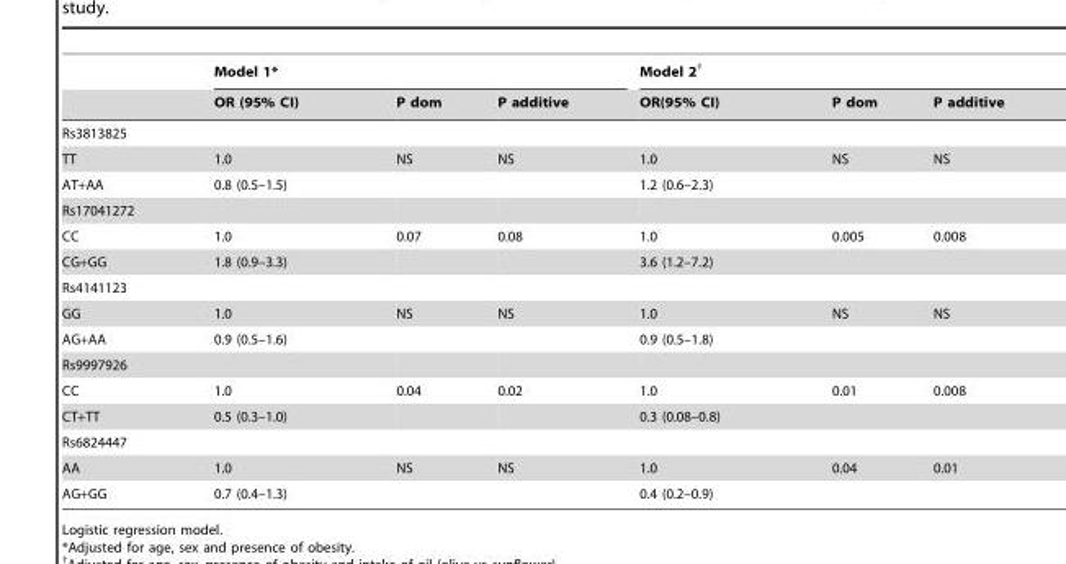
<table><thead><tr><td rowspan="2"></td><td colspan="3">Model 1*</td><td colspan="3">Model 2†</td></tr><tr><td>OR (95% CI)</td><td>P dom</td><td>P additive</td><td>OR(95% CI)</td><td>P dom</td><td>P additive</td></tr></thead><tbody><tr><td colspan="7">Rs3813825</td></tr><tr><td>TT</td><td>1.0</td><td>NS</td><td>NS</td><td>1.0</td><td>NS</td><td>NS</td></tr><tr><td>AT+AA</td><td>0.8 (0.5–1.5)</td><td></td><td></td><td>1.2 (0.6–2.3)</td><td></td><td></td></tr><tr><td colspan="7">Rs17041272</td></tr><tr><td>CC</td><td>1.0</td><td>0.07</td><td>0.08</td><td>1.0</td><td>0.005</td><td>0.008</td></tr><tr><td>CG+GG</td><td>1.8 (0.9–3.3)</td><td></td><td></td><td>3.6 (1.2–7.2)</td><td></td><td></td></tr><tr><td colspan="7">Rs4141123</td></tr><tr><td>GG</td><td>1.0</td><td>NS</td><td>NS</td><td>1.0</td><td>NS</td><td>NS</td></tr><tr><td>AG+AA</td><td>0.9 (0.5–1.6)</td><td></td><td></td><td>0.9 (0.5–1.8)</td><td></td><td></td></tr><tr><td colspan="7">Rs9997926</td></tr><tr><td>CC</td><td>1.0</td><td>0.04</td><td>0.02</td><td>1.0</td><td>0.01</td><td>0.008</td></tr><tr><td>CT+TT</td><td>0.5 (0.3–1.0)</td><td></td><td></td><td>0.3 (0.08–0.8)</td><td></td><td></td></tr><tr><td colspan="7">Rs6824447</td></tr><tr><td>AA</td><td>1.0</td><td>NS</td><td>NS</td><td>1.0</td><td>0.04</td><td>0.01</td></tr><tr><td>AG+GG</td><td>0.7 (0.4–1.3)</td><td></td><td></td><td>0.4 (0.2–0.9)</td><td></td><td></td></tr></tbody></table>